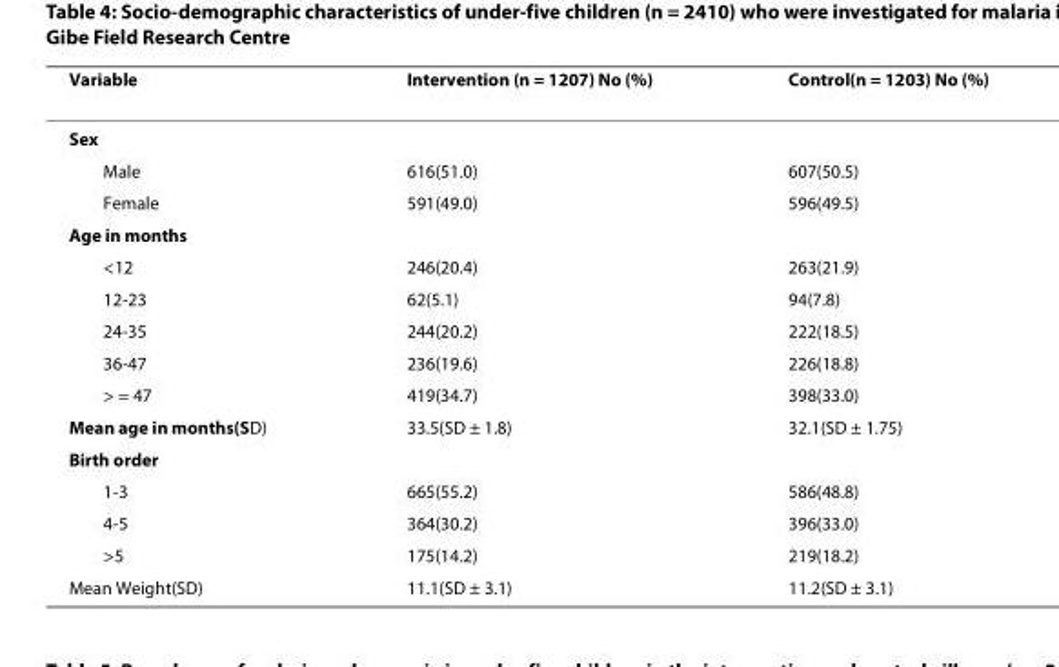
<table><thead><tr><td>Variable</td><td>Intervention (n = 1207) No (%)</td><td>Control(n = 1203) No (%)</td></tr></thead><tbody><tr><td colspan="3">Sex</td></tr><tr><td>Male</td><td>616(51.0)</td><td>607(50.5)</td></tr><tr><td>Female</td><td>591(49.0)</td><td>596(49.5)</td></tr><tr><td colspan="3">Age in months</td></tr><tr><td>&lt;12</td><td>246(20.4)</td><td>263(21.9)</td></tr><tr><td>12-23</td><td>62(5.1)</td><td>94(7.8)</td></tr><tr><td>24-35</td><td>244(20.2)</td><td>222(18.5)</td></tr><tr><td>36-47</td><td>236(19.6)</td><td>226(18.8)</td></tr><tr><td>&gt; = 47</td><td>419(34.7)</td><td>398(33.0)</td></tr><tr><td>Mean age in months(SD)</td><td>33.5(SD ± 1.8)</td><td>32.1(SD ± 1.75)</td></tr><tr><td colspan="3">Birth order</td></tr><tr><td>1-3</td><td>665(55.2)</td><td>586(48.8)</td></tr><tr><td>4-5</td><td>364(30.2)</td><td>396(33.0)</td></tr><tr><td>&gt;5</td><td>175(14.2)</td><td>219(18.2)</td></tr><tr><td>Mean Weight(SD)</td><td>11.1(SD ± 3.1)</td><td>11.2(SD ± 3.1)</td></tr></tbody></table>